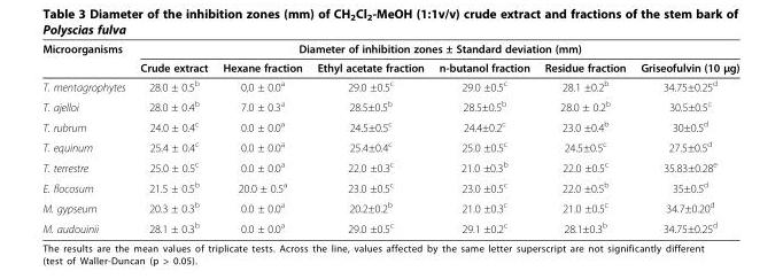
<table><thead><tr><td rowspan="2">Microorganisms</td><td colspan="6">Diameter of inhibition zones ± Standard deviation (mm)</td></tr><tr><td>Crude extract</td><td>Hexane fraction</td><td>Ethyl acetate fraction</td><td>n-butanol fraction</td><td>Residue fraction</td><td>Griseofulvin (10 μg)</td></tr></thead><tbody><tr><td>T. mentagrophytes</td><td>28.0 ± 0.5<sup>b</sup></td><td>0,0 ± 0.0<sup>a</sup></td><td>29.0 ±0.5<sup>c</sup></td><td>29.0 ±0.5<sup>c</sup></td><td>28.1 ±0.2<sup>b</sup></td><td>34.75±0.25<sup>d</sup></td></tr><tr><td>T. ajelloi</td><td>28.0 ± 0.4<sup>b</sup></td><td>7.0 ± 0.3<sup>a</sup></td><td>28.5±0.5<sup>b</sup></td><td>28.5±0.5<sup>b</sup></td><td>28.0 ± 0.2<sup>b</sup></td><td>30.5±0.5<sup>c</sup></td></tr><tr><td>T. rubrum</td><td>24.0 ± 0.4<sup>c</sup></td><td>0.0 ± 0.0<sup>a</sup></td><td>24.5±0.5<sup>c</sup></td><td>24.4±0.2<sup>c</sup></td><td>23.0 ±0.4<sup>b</sup></td><td>30±0.5<sup>d</sup></td></tr><tr><td>T. equinum</td><td>25.4 ± 0.4<sup>c</sup></td><td>0.0 ± 0.0<sup>a</sup></td><td>25.4±0.4<sup>c</sup></td><td>25.0 ±0.5<sup>c</sup></td><td>24.5±0.5<sup>c</sup></td><td>27.5±0.5<sup>d</sup></td></tr><tr><td>T. terrestre</td><td>25.0 ± 0.5<sup>c</sup></td><td>0.0 ± 0.0<sup>a</sup></td><td>22.0 ±0.3<sup>c</sup></td><td>21.0 ±0.3<sup>b</sup></td><td>22.0 ±0.5<sup>c</sup></td><td>35.83±0.28<sup>e</sup></td></tr><tr><td>E. flocosum</td><td>21.5 ± 0.5<sup>b</sup></td><td>20.0 ± 0.5<sup>a</sup></td><td>23.0 ±0.5<sup>c</sup></td><td>23.0 ±0.5<sup>c</sup></td><td>22.0 ±0.5<sup>b</sup></td><td>35±0.5<sup>d</sup></td></tr><tr><td>M. gypseum</td><td>20.3 ± 0.3<sup>b</sup></td><td>0.0 ± 0.0<sup>a</sup></td><td>20.2±0.2<sup>b</sup></td><td>21.0 ±0.3<sup>c</sup></td><td>21.0 ±0.5<sup>c</sup></td><td>34.7±0.20<sup>d</sup></td></tr><tr><td>M. audouinii</td><td>28.1 ± 0.3<sup>b</sup></td><td>0.0 ± 0.0<sup>a</sup></td><td>29.0 ±0.5<sup>c</sup></td><td>29.1 ±0.2<sup>c</sup></td><td>28.1±0.3<sup>b</sup></td><td>34.75±0.25<sup>d</sup></td></tr></tbody></table>